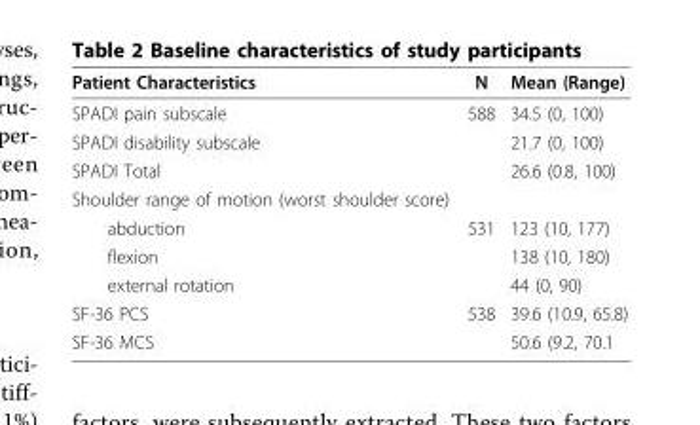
<table><thead><tr><td>Patient Characteristics</td><td>N</td><td>Mean (Range)</td></tr></thead><tbody><tr><td>SPADI pain subscale</td><td>588</td><td>34.5 (0, 100)</td></tr><tr><td>SPADI disability subscale</td><td></td><td>21.7 (0, 100)</td></tr><tr><td>SPADI Total</td><td></td><td>26.6 (0.8, 100)</td></tr><tr><td colspan="3">Shoulder range of motion (worst shoulder score)</td></tr><tr><td>abduction</td><td>531</td><td>123 (10, 177)</td></tr><tr><td>flexion</td><td></td><td>138 (10, 180)</td></tr><tr><td>external rotation</td><td></td><td>44 (0, 90)</td></tr><tr><td>SF-36 PCS</td><td>538</td><td>39.6 (10.9, 65.8)</td></tr><tr><td>SF-36 MCS</td><td></td><td>50.6 (9.2, 70.1</td></tr></tbody></table>